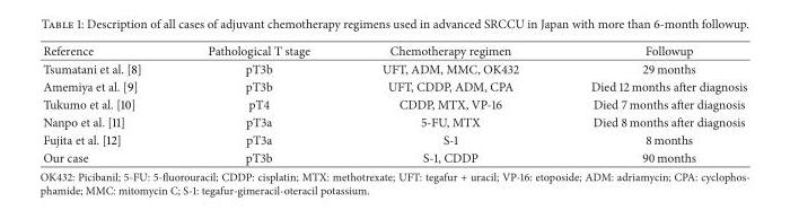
<table><thead><tr><td>Reference</td><td>Pathological T stage</td><td>Chemotherapy regimen</td><td>Followup</td></tr></thead><tbody><tr><td>Tsumatani et al. [8]</td><td>pT3b</td><td>UFT, ADM, MMC, OK432</td><td>29 months</td></tr><tr><td>Amemiya et al. [9]</td><td>pT3b</td><td>UFT, CDDP, ADM, CPA</td><td>Died 12 months after diagnosis</td></tr><tr><td>Tukumo et al. [10]</td><td>pT4</td><td>CDDP, MTX, VP-16</td><td>Died 7 months after diagnosis</td></tr><tr><td>Nanpo et al. [11]</td><td>pT3a</td><td>5-FU, MTX</td><td>Died 8 months after diagnosis</td></tr><tr><td>Fujita et al. [12]</td><td>pT3a</td><td>S-1</td><td>8 months</td></tr><tr><td>Our case</td><td>pT3b</td><td>S-1, CDDP</td><td>90 months</td></tr></tbody></table>